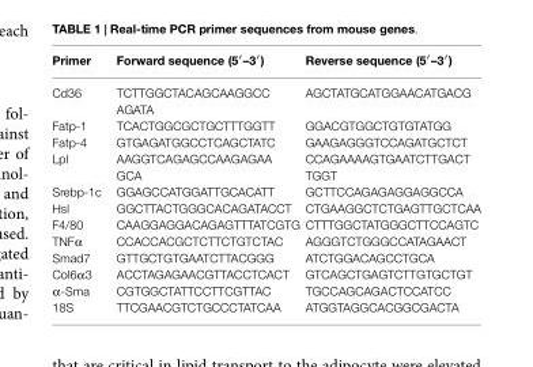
<table><thead><tr><td>Primer</td><td>Forward sequence (5′–3′)</td><td>Reverse sequence (5′–3′)</td></tr></thead><tbody><tr><td>Cd36</td><td>TCTTGGCTACAGCAAGGCC AGATA</td><td>AGCTATGCATGGAACATGACG</td></tr><tr><td>Fatp-1</td><td>TCACTGGCGCTGCTTTGGTT</td><td>GGACGTGGCTGTGTATGG</td></tr><tr><td>Fatp-4</td><td>GTGAGATGGCCTCAGCTATC</td><td>GAAGAGGGTCCAGATGCTCT</td></tr><tr><td>Lpl</td><td>AAGGTCAGAGCCAAGAGAA GCA</td><td>CCAGAAAAGTGAATCTTGACT TGGT</td></tr><tr><td>Srebp-1c</td><td>GGAGCCATGGATTGCACATT</td><td>GCTTCCAGAGAGGAGGCCA</td></tr><tr><td>Hsl</td><td>GGCTTACTGGGCACAGATACCT</td><td>CTGAAGGCTCTGAGTTGCTCAA</td></tr><tr><td>F4/80</td><td>CAAGGAGGACAGAGTTTATCGTG</td><td>CTTTGGCTATGGGCTTCCAGTC</td></tr><tr><td>TNFα</td><td>CCACCACGCTCTTCTGTCTAC</td><td>AGGGTCTGGGCCATAGAACT</td></tr><tr><td>Smad7</td><td>GTTGCTGTGAATCTTACGGG</td><td>ATCTGGACAGCCTGCA</td></tr><tr><td>Col6α3</td><td>ACCTAGAGAACGTTACCTCACT</td><td>GTCAGCTGAGTCTTGTGCTGT</td></tr><tr><td>α-Sma</td><td>CGTGGCTATTCCTTCGTTAC</td><td>TGCCAGCAGACTCCATCC</td></tr><tr><td>18S</td><td>TTCGAACGTCTGCCCTATCAA</td><td>ATGGTAGGCACGGCGACTA</td></tr></tbody></table>